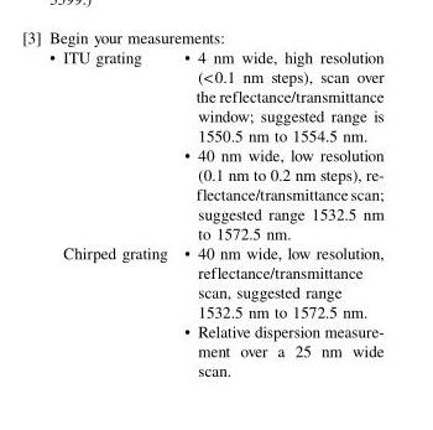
<table><tbody><tr><td rowspan="2">• ITU grating</td><td>• 4 nm wide, high resolution (&lt;0.1 nm steps), scan over the reflectance/transmittance window; suggested range is 1550.5 nm to 1554.5 nm.</td></tr><tr><td>• 40 nm wide, low resolution (0.1 nm to 0.2 nm steps), re- flectance/transmittancescan; suggested range 1532.5 nm to 1572.5 nm.</td></tr><tr><td rowspan="2">Chirped grating</td><td>• 40 nm wide, low resolution, reflectance/transmittance scan, suggested range 1532.5 nm to 1572.5 nm.</td></tr><tr><td>• Relative dispersion measure- ment over a 25 nm wide scan.</td></tr></tbody></table>